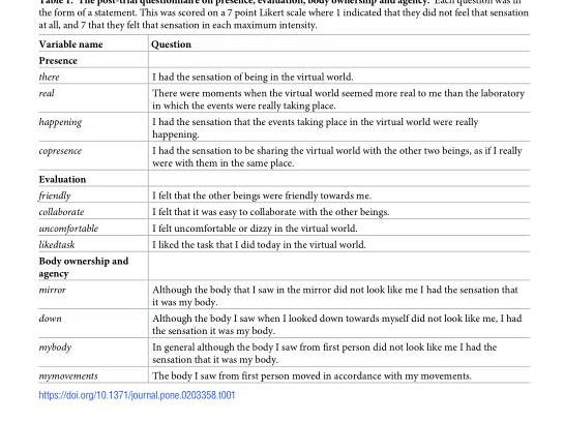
<table><thead><tr><td>Variable name</td><td>Question</td></tr></thead><tbody><tr><td colspan="2">Presence</td></tr><tr><td>there</td><td>I had the sensation of being in the virtual world.</td></tr><tr><td>real</td><td>There were moments when the virtual world seemed more real to me than the laboratory in which the events were really taking place.</td></tr><tr><td>happening</td><td>I had the sensation that the events taking place in the virtual world were really happening.</td></tr><tr><td>copresence</td><td>I had the sensation to be sharing the virtual world with the other two beings, as if I really were with them in the same place.</td></tr><tr><td colspan="2">Evaluation</td></tr><tr><td>friendly</td><td>I felt that the other beings were friendly towards me.</td></tr><tr><td>collaborate</td><td>I felt that it was easy to collaborate with the other beings.</td></tr><tr><td>uncomfortable</td><td>I felt uncomfortable or dizzy in the virtual world.</td></tr><tr><td>likedtask</td><td>I liked the task that I did today in the virtual world.</td></tr><tr><td colspan="2">Body ownership and agency</td></tr><tr><td>mirror</td><td>Although the body that I saw in the mirror did not look like me I had the sensation that it was my body.</td></tr><tr><td>down</td><td>Although the body I saw when I looked down towards myself did not look like me, I had the sensation it was my body.</td></tr><tr><td>mybody</td><td>In general although the body I saw from first person did not look like me I had the sensation that it was my body.</td></tr><tr><td>mymovements</td><td>The body I saw from first person moved in accordance with my movements.</td></tr></tbody></table>